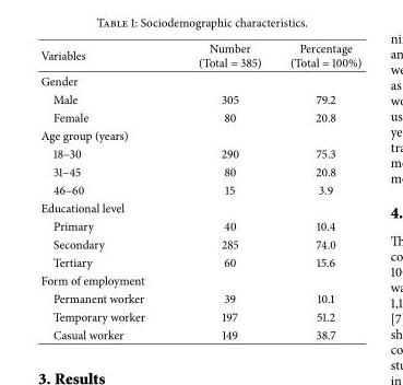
<table><thead><tr><td>Variables</td><td>Number (Total = 385)</td><td>Percentage (Total = 100%)</td></tr></thead><tbody><tr><td colspan="3">Gender</td></tr><tr><td>Male</td><td>305</td><td>79.2</td></tr><tr><td>Female</td><td>80</td><td>20.8</td></tr><tr><td colspan="3">Age group (years)</td></tr><tr><td>18–30</td><td>290</td><td>75.3</td></tr><tr><td>31–45</td><td>80</td><td>20.8</td></tr><tr><td>46–60</td><td>15</td><td>3.9</td></tr><tr><td colspan="3">Educational level</td></tr><tr><td>Primary</td><td>40</td><td>10.4</td></tr><tr><td>Secondary</td><td>285</td><td>74.0</td></tr><tr><td>Tertiary</td><td>60</td><td>15.6</td></tr><tr><td colspan="3">Form of employment</td></tr><tr><td>Permanent worker</td><td>39</td><td>10.1</td></tr><tr><td>Temporary worker</td><td>197</td><td>51.2</td></tr><tr><td>Casual worker</td><td>149</td><td>38.7</td></tr></tbody></table>